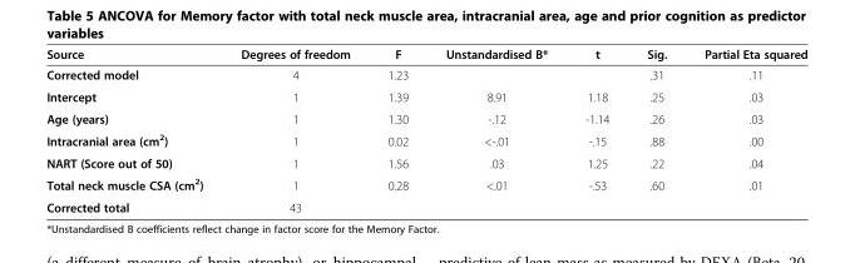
<table><thead><tr><td>Source</td><td>Degrees of freedom</td><td>F</td><td>Unstandardised B*</td><td>t</td><td>Sig.</td><td>Partial Eta squared</td></tr></thead><tbody><tr><td>Corrected model</td><td>4</td><td>1.23</td><td></td><td></td><td>.31</td><td>.11</td></tr><tr><td>Intercept</td><td>1</td><td>1.39</td><td>8.91</td><td>1.18</td><td>.25</td><td>.03</td></tr><tr><td>Age (years)</td><td>1</td><td>1.30</td><td>-.12</td><td>-1.14</td><td>.26</td><td>.03</td></tr><tr><td>Intracranial area (cm<sup>2</sup>)</td><td>1</td><td>0.02</td><td>&lt;-.01</td><td>-.15</td><td>.88</td><td>.00</td></tr><tr><td>NART (Score out of 50)</td><td>1</td><td>1.56</td><td>.03</td><td>1.25</td><td>.22</td><td>.04</td></tr><tr><td>Total neck muscle CSA (cm<sup>2</sup>)</td><td>1</td><td>0.28</td><td>&lt;.01</td><td>-.53</td><td>.60</td><td>.01</td></tr><tr><td>Corrected total</td><td>43</td><td></td><td></td><td></td><td></td><td></td></tr></tbody></table>